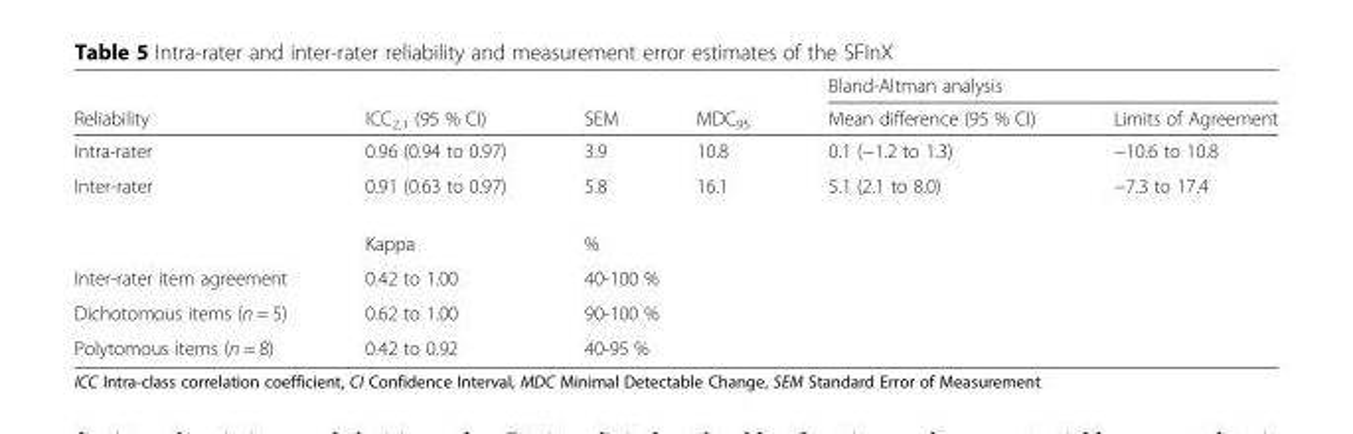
<table><thead><tr><td rowspan="2">Reliability</td><td rowspan="2">ICC<sub>2,1</sub> (95 % CI)</td><td rowspan="2">SEM</td><td rowspan="2">MDC<sub>95</sub></td><td colspan="2">Bland-Altman analysis</td></tr><tr><td>Mean difference (95 % CI)</td><td>Limits of Agreement</td></tr></thead><tbody><tr><td>Intra-rater</td><td>0.96 (0.94 to 0.97)</td><td>3.9</td><td>10.8</td><td>0.1 (−1.2 to 1.3)</td><td>−10.6 to 10.8</td></tr><tr><td rowspan="2">Inter-rater</td><td>0.91 (0.63 to 0.97)</td><td>5.8</td><td>16.1</td><td>5.1 (2.1 to 8.0)</td><td>−7.3 to 17.4</td></tr><tr><td>Kappa</td><td>%</td><td></td><td></td><td></td></tr><tr><td>Inter-rater item agreement</td><td>0.42 to 1.00</td><td colspan="2">40-100 %</td><td></td><td></td></tr><tr><td>Dichotomous items (n = 5)</td><td>0.62 to 1.00</td><td colspan="2">90-100 %</td><td></td><td></td></tr><tr><td>Polytomous items (n = 8)</td><td>0.42 to 0.92</td><td colspan="2">40-95 %</td><td></td><td></td></tr></tbody></table>